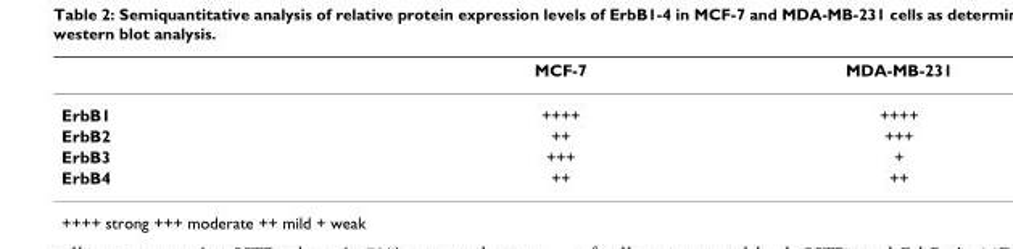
<table><thead><tr><td></td><td>MCF-7</td><td>MDA-MB-231</td></tr></thead><tbody><tr><td>ErbB1</td><td>++++</td><td>++++</td></tr><tr><td>ErbB2</td><td>++</td><td>+++</td></tr><tr><td>ErbB3</td><td>+++</td><td>+</td></tr><tr><td>ErbB4</td><td>++</td><td>++</td></tr></tbody></table>